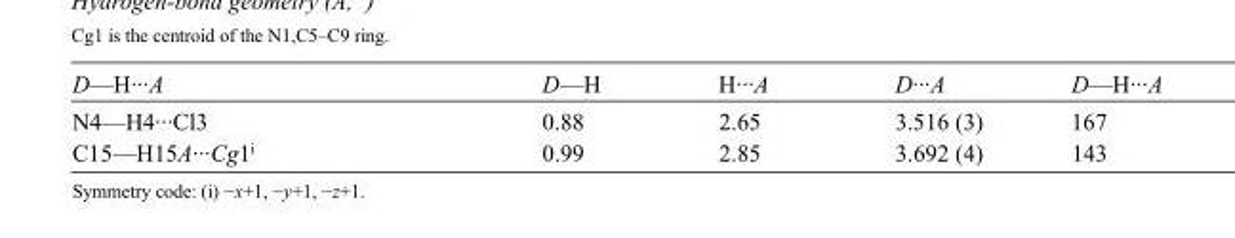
<table><tbody><tr><td>D—H···A</td><td>D—H</td><td>H···A</td><td>D···A</td><td>D—H···A</td></tr><tr><td>N4—H4···Cl3</td><td>0.88</td><td>2.65</td><td>3.516 (3)</td><td>167</td></tr><tr><td>C15—H15A···Cg1<sup>i</sup></td><td>0.99</td><td>2.85</td><td>3.692 (4)</td><td>143</td></tr></tbody></table>